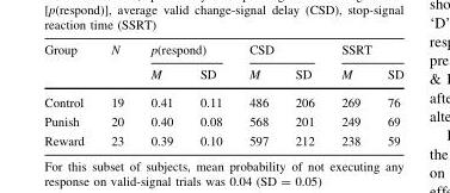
<table><thead><tr><td rowspan="2">Group</td><td rowspan="2">N</td><td colspan="2">p(respond)</td><td colspan="2">CSD</td><td colspan="2">SSRT</td></tr><tr><td>M</td><td>SD</td><td>M</td><td>SD</td><td>M</td><td>SD</td></tr></thead><tbody><tr><td>Control</td><td>19</td><td>0.41</td><td>0.11</td><td>486</td><td>206</td><td>269</td><td>76</td></tr><tr><td>Punish</td><td>20</td><td>0.40</td><td>0.08</td><td>568</td><td>201</td><td>249</td><td>69</td></tr><tr><td>Reward</td><td>23</td><td>0.39</td><td>0.10</td><td>597</td><td>212</td><td>238</td><td>59</td></tr></tbody></table>